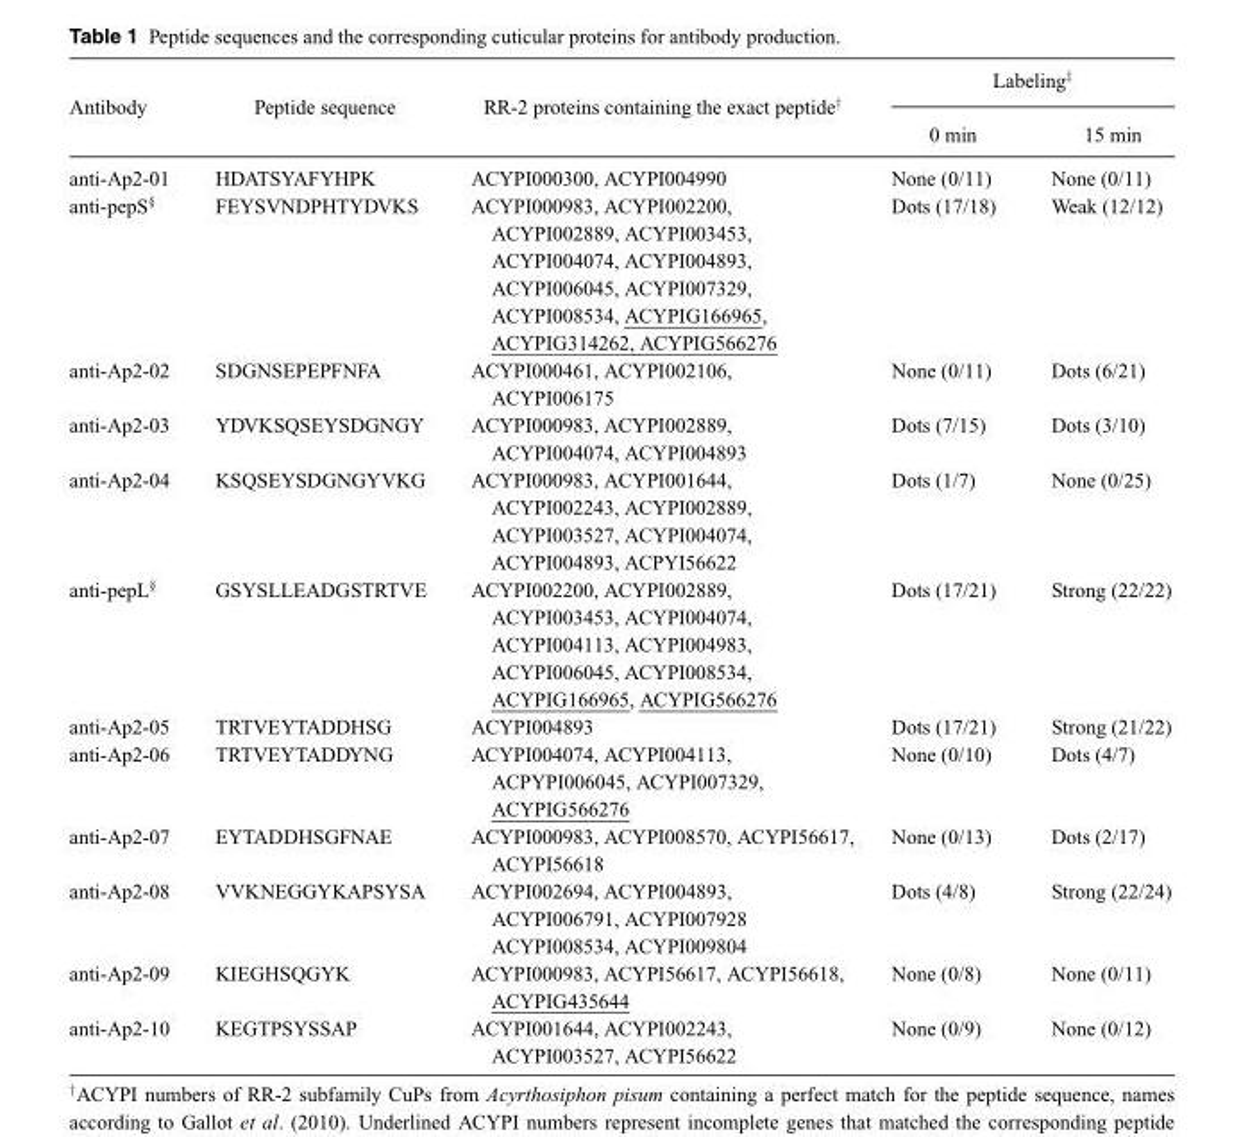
<table><thead><tr><td rowspan="2">Antibody</td><td rowspan="2">Peptide sequence</td><td rowspan="2">RR-2 proteins containing the exact peptide†</td><td colspan="2">Labeling‡</td></tr><tr><td>0 min</td><td>15 min</td></tr></thead><tbody><tr><td>anti-Ap2-01</td><td>HDATSYAFYHPK</td><td>ACYPI000300, ACYPI004990</td><td>None (0/11)</td><td>None (0/11)</td></tr><tr><td>anti-pepS§</td><td>FEYSVNDPHTYDVKS</td><td>ACYPI000983, ACYPI002200, ACYPI002889, ACYPI003453, ACYPI004074, ACYPI004893, ACYPI006045, ACYPI007329, ACYPI008534, ACYPIG166965, ACYPIG314262, ACYPIG566276</td><td>Dots (17/18)</td><td>Weak (12/12)</td></tr><tr><td>anti-Ap2-02</td><td>SDGNSEPEPFNFA</td><td>ACYPI000461, ACYPI002106, ACYPI006175</td><td>None (0/11)</td><td>Dots (6/21)</td></tr><tr><td>anti-Ap2-03</td><td>YDVKSQSEYSDGNGY</td><td>ACYPI000983, ACYPI002889, ACYPI004074, ACYPI004893</td><td>Dots (7/15)</td><td>Dots (3/10)</td></tr><tr><td>anti-Ap2-04</td><td>KSQSEYSDGNGYVKG</td><td>ACYPI000983, ACYPI001644, ACYPI002243, ACYPI002889, ACYPI003527, ACYPI004074, ACYPI004893, ACPYI56622</td><td>Dots (1/7)</td><td>None (0/25)</td></tr><tr><td>anti-pepL§</td><td>GSYSLLEADGSTRTVE</td><td>ACYPI002200, ACYPI002889, ACYPI003453, ACYPI004074, ACYPI004113, ACYPI004983, ACYPI006045, ACYPI008534, ACYPIG166965, ACYPIG566276</td><td>Dots (17/21)</td><td>Strong (22/22)</td></tr><tr><td>anti-Ap2-05</td><td>TRTVEYTADDHSG</td><td>ACYPI004893</td><td>Dots (17/21)</td><td>Strong (21/22)</td></tr><tr><td>anti-Ap2-06</td><td>TRTVEYTADDYNG</td><td>ACYPI004074, ACYPI004113, ACPYPI006045, ACYPI007329, ACYPIG566276</td><td>None (0/10)</td><td>Dots (4/7)</td></tr><tr><td>anti-Ap2-07</td><td>EYTADDHSGFNAE</td><td>ACYPI000983, ACYPI008570, ACYPI56617, ACYPI56618</td><td>None (0/13)</td><td>Dots (2/17)</td></tr><tr><td>anti-Ap2-08</td><td>VVKNEGGYKAPSYSA</td><td>ACYPI002694, ACYPI004893, ACYPI006791, ACYPI007928 ACYPI008534, ACYPI009804</td><td>Dots (4/8)</td><td>Strong (22/24)</td></tr><tr><td>anti-Ap2-09</td><td>KIEGHSQGYK</td><td>ACYPI000983, ACYPI56617, ACYPI56618, ACYPIG435644</td><td>None (0/8)</td><td>None (0/11)</td></tr><tr><td>anti-Ap2-10</td><td>KEGTPSYSSAP</td><td>ACYPI001644, ACYPI002243, ACYPI003527, ACYPI56622</td><td>None (0/9)</td><td>None (0/12)</td></tr></tbody></table>